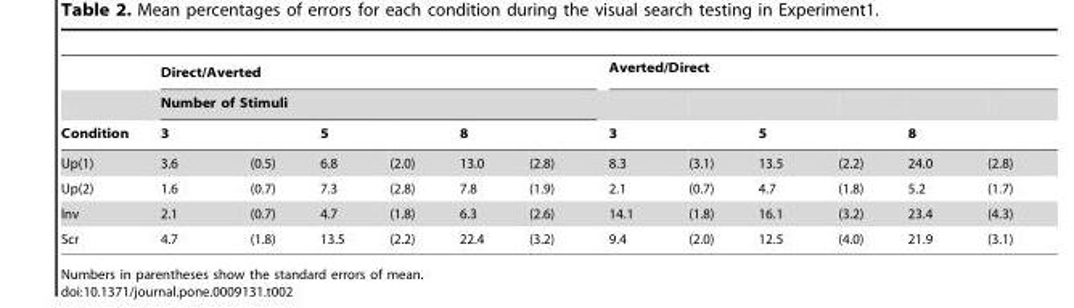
<table><thead><tr><td rowspan="3">Condition</td><td rowspan="2" colspan="6">Direct/Averted Number of Stimuli</td><td colspan="6">Averted/Direct</td></tr><tr><td rowspan="2">3</td><td rowspan="2"></td><td rowspan="2">5</td><td rowspan="2"></td><td rowspan="2">8</td><td rowspan="2"></td></tr><tr><td>3</td><td></td><td>5</td><td></td><td>8</td><td></td></tr></thead><tbody><tr><td>Up(1)</td><td>3.6</td><td>(0.5)</td><td>6.8</td><td>(2.0)</td><td>13.0</td><td>(2.8)</td><td>8.3</td><td>(3.1)</td><td>13.5</td><td>(2.2)</td><td>24.0</td><td>(2.8)</td></tr><tr><td>Up(2)</td><td>1.6</td><td>(0.7)</td><td>7.3</td><td>(2.8)</td><td>7.8</td><td>(1.9)</td><td>2.1</td><td>(0.7)</td><td>4.7</td><td>(1.8)</td><td>5.2</td><td>(1.7)</td></tr><tr><td>Inv</td><td>2.1</td><td>(0.7)</td><td>4.7</td><td>(1.8)</td><td>6.3</td><td>(2.6)</td><td>14.1</td><td>(1.8)</td><td>16.1</td><td>(3.2)</td><td>23.4</td><td>(4.3)</td></tr><tr><td>Scr</td><td>4.7</td><td>(1.8)</td><td>13.5</td><td>(2.2)</td><td>22.4</td><td>(3.2)</td><td>9.4</td><td>(2.0)</td><td>12.5</td><td>(4.0)</td><td>21.9</td><td>(3.1)</td></tr></tbody></table>